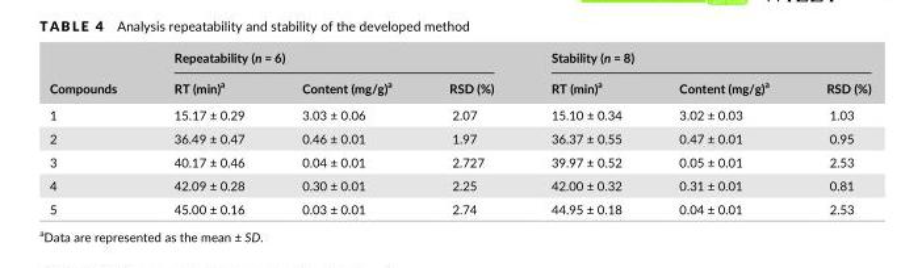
<table><thead><tr><td rowspan="2">Compounds</td><td colspan="3">Repeatability (n = 6)</td><td colspan="3">Stability (n = 8)</td></tr><tr><td>RT (min)<sup>a</sup></td><td>Content (mg/g)<sup>a</sup></td><td>RSD (%)</td><td>RT (min)<sup>a</sup></td><td>Content (mg/g)<sup>a</sup></td><td>RSD (%)</td></tr></thead><tbody><tr><td>1</td><td>15.17 ± 0.29</td><td>3.03 ± 0.06</td><td>2.07</td><td>15.10 ± 0.34</td><td>3.02 ± 0.03</td><td>1.03</td></tr><tr><td>2</td><td>36.49 ± 0.47</td><td>0.46 ± 0.01</td><td>1.97</td><td>36.37 ± 0.55</td><td>0.47 ± 0.01</td><td>0.95</td></tr><tr><td>3</td><td>40.17 ± 0.46</td><td>0.04 ± 0.01</td><td>2.727</td><td>39.97 ± 0.52</td><td>0.05 ± 0.01</td><td>2.53</td></tr><tr><td>4</td><td>42.09 ± 0.28</td><td>0.30 ± 0.01</td><td>2.25</td><td>42.00 ± 0.32</td><td>0.31 ± 0.01</td><td>0.81</td></tr><tr><td>5</td><td>45.00 ± 0.16</td><td>0.03 ± 0.01</td><td>2.74</td><td>44.95 ± 0.18</td><td>0.04 ± 0.01</td><td>2.53</td></tr></tbody></table>